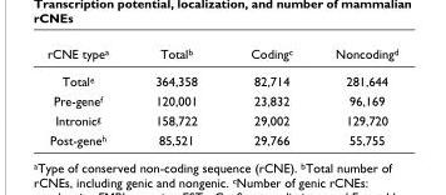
<table><thead><tr><td>rCNE typea</td><td>Totalb</td><td>Codingc</td><td>Noncodingd</td></tr></thead><tbody><tr><td>Totale</td><td>364,358</td><td>82,714</td><td>281,644</td></tr><tr><td>Pre-genef</td><td>120,001</td><td>23,832</td><td>96,169</td></tr><tr><td>Intronicg</td><td>158,722</td><td>29,002</td><td>129,720</td></tr><tr><td>Post-geneh</td><td>85,521</td><td>29,766</td><td>55,755</td></tr></tbody></table>